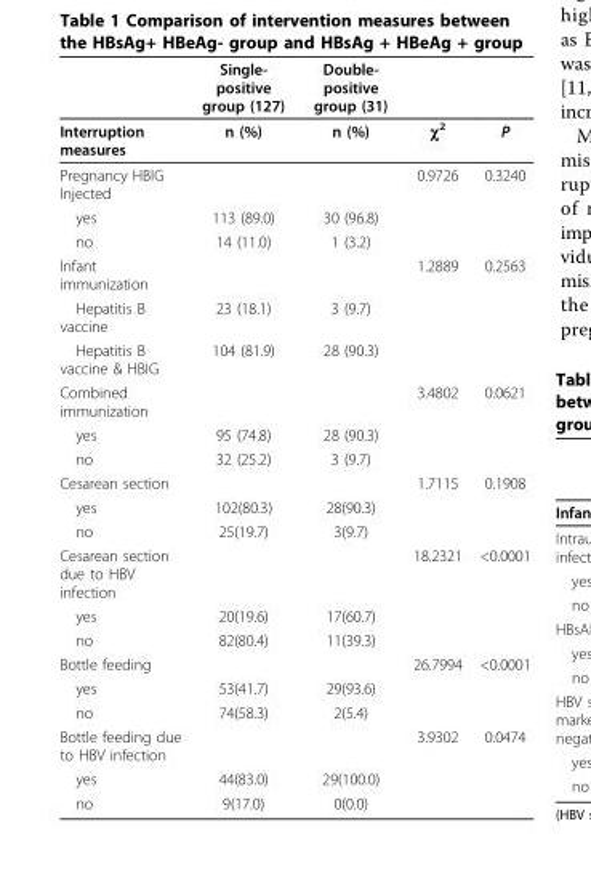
<table><thead><tr><td rowspan="2">Interruption measures</td><td rowspan="2">Single- positive group (127) n (%)</td><td rowspan="2">Double- positive group (31) n (%)</td><td rowspan="2">χ<sup>2</sup></td><td rowspan="2">P</td></tr><tr></tr></thead><tbody><tr><td>Pregnancy HBIG Injected</td><td></td><td></td><td>0.9726</td><td>0.3240</td></tr><tr><td>yes</td><td>113 (89.0)</td><td>30 (96.8)</td><td></td><td></td></tr><tr><td>no</td><td>14 (11.0)</td><td>1 (3.2)</td><td></td><td></td></tr><tr><td>Infant immunization</td><td></td><td></td><td>1.2889</td><td>0.2563</td></tr><tr><td>Hepatitis B vaccine</td><td>23 (18.1)</td><td>3 (9.7)</td><td></td><td></td></tr><tr><td>Hepatitis B vaccine &amp; HBIG</td><td>104 (81.9)</td><td>28 (90.3)</td><td></td><td></td></tr><tr><td>Combined immunization</td><td></td><td></td><td>3.4802</td><td>0.0621</td></tr><tr><td>yes</td><td>95 (74.8)</td><td>28 (90.3)</td><td></td><td></td></tr><tr><td>no</td><td>32 (25.2)</td><td>3 (9.7)</td><td></td><td></td></tr><tr><td>Cesarean section</td><td></td><td></td><td>1.7115</td><td>0.1908</td></tr><tr><td>yes</td><td>102(80.3)</td><td>28(90.3)</td><td></td><td></td></tr><tr><td>no</td><td>25(19.7)</td><td>3(9.7)</td><td></td><td></td></tr><tr><td>Cesarean section due to HBV infection</td><td></td><td></td><td>18.2321</td><td>&lt;0.0001</td></tr><tr><td>yes</td><td>20(19.6)</td><td>17(60.7)</td><td></td><td></td></tr><tr><td>no</td><td>82(80.4)</td><td>11(39.3)</td><td></td><td></td></tr><tr><td>Bottle feeding</td><td></td><td></td><td>26.7994</td><td>&lt;0.0001</td></tr><tr><td>yes</td><td>53(41.7)</td><td>29(93.6)</td><td></td><td></td></tr><tr><td>no</td><td>74(58.3)</td><td>2(5.4)</td><td></td><td></td></tr><tr><td>Bottle feeding due to HBV infection</td><td></td><td></td><td>3.9302</td><td>0.0474</td></tr><tr><td>yes</td><td>44(83.0)</td><td>29(100.0)</td><td></td><td></td></tr><tr><td>no</td><td>9(17.0)</td><td>0(0.0)</td><td></td><td></td></tr></tbody></table>